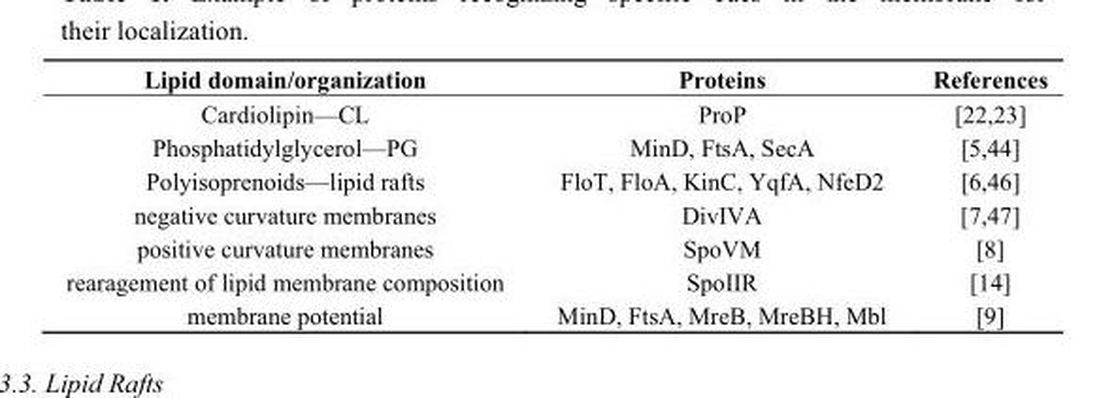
<table><thead><tr><td>Lipid domain/organization</td><td>Proteins</td><td>References</td></tr></thead><tbody><tr><td>Cardiolipin—CL</td><td>ProP</td><td>[22,23]</td></tr><tr><td>Phosphatidylglycerol—PG</td><td>MinD, FtsA, SecA</td><td>[5,44]</td></tr><tr><td>Polyisoprenoids—lipid rafts</td><td>FloT, FloA, KinC, YqfA, NfeD2</td><td>[6,46]</td></tr><tr><td>negative curvature membranes</td><td>DivIVA</td><td>[7,47]</td></tr><tr><td>positive curvature membranes</td><td>SpoVM</td><td>[8]</td></tr><tr><td>rearagement of lipid membrane composition</td><td>SpoIIR</td><td>[14]</td></tr><tr><td>membrane potential</td><td>MinD, FtsA, MreB, MreBH, Mbl</td><td>[9]</td></tr></tbody></table>